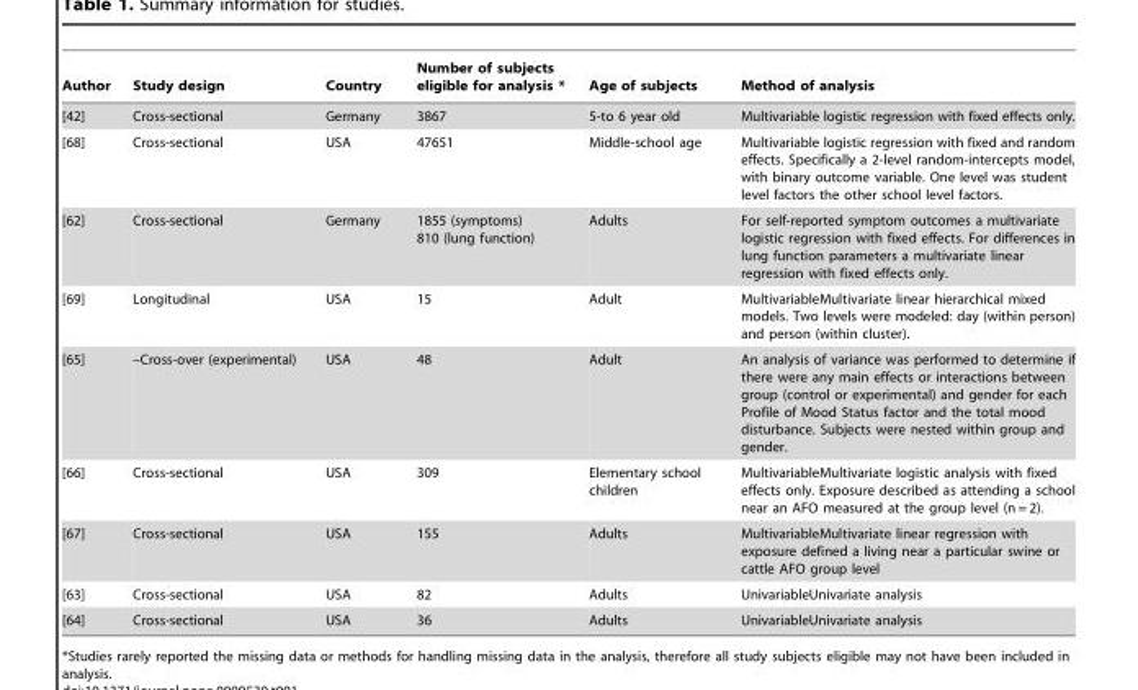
<table><thead><tr><td>Author</td><td>Study design</td><td>Country</td><td>Number of subjects eligible for analysis *</td><td>Age of subjects</td><td>Method of analysis</td></tr></thead><tbody><tr><td>[42]</td><td>Cross-sectional</td><td>Germany</td><td>3867</td><td>5-to 6 year old</td><td>Multivariable logistic regression with fixed effects only.</td></tr><tr><td>[68]</td><td>Cross-sectional</td><td>USA</td><td>47651</td><td>Middle-school age</td><td>Multivariable logistic regression with fixed and random effects. Specifically a 2-level random-intercepts model, with binary outcome variable. One level was student level factors the other school level factors.</td></tr><tr><td>[62]</td><td>Cross-sectional</td><td>Germany</td><td>1855 (symptoms) 810 (lung function)</td><td>Adults</td><td>For self-reported symptom outcomes a multivariate logistic regression with fixed effects. For differences in lung function parameters a multivariate linear regression with fixed effects only.</td></tr><tr><td>[69]</td><td>Longitudinal</td><td>USA</td><td>15</td><td>Adult</td><td>MultivariableMultivariate linear hierarchical mixed models. Two levels were modeled: day (within person) and person (within cluster).</td></tr><tr><td>[65]</td><td>–Cross-over (experimental)</td><td>USA</td><td>48</td><td>Adult</td><td>An analysis of variance was performed to determine if there were any main effects or interactions between group (control or experimental) and gender for each Profile of Mood Status factor and the total mood disturbance. Subjects were nested within group and gender.</td></tr><tr><td>[66]</td><td>Cross-sectional</td><td>USA</td><td>309</td><td>Elementary school children</td><td>MultivariableMultivariate logistic analysis with fixed effects only. Exposure described as attending a school near an AFO measured at the group level (n = 2).</td></tr><tr><td>[67]</td><td>Cross-sectional</td><td>USA</td><td>155</td><td>Adults</td><td>MultivariableMultivariate linear regression with exposure defined a living near a particular swine or cattle AFO group level</td></tr><tr><td>[63]</td><td>Cross-sectional</td><td>USA</td><td>82</td><td>Adults</td><td>UnivariableUnivariate analysis</td></tr><tr><td>[64]</td><td>Cross-sectional</td><td>USA</td><td>36</td><td>Adults</td><td>UnivariableUnivariate analysis</td></tr></tbody></table>